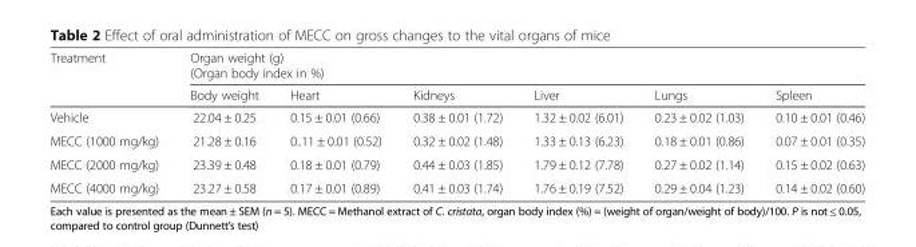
<table><thead><tr><td rowspan="2">Treatment</td><td colspan="6">Organ weight (g) (Organ body index in %)</td></tr><tr><td>Body weight</td><td>Heart</td><td>Kidneys</td><td>Liver</td><td>Lungs</td><td>Spleen</td></tr></thead><tbody><tr><td>Vehicle</td><td>22.04 ± 0.25</td><td>0.15 ± 0.01 (0.66)</td><td>0.38 ± 0.01 (1.72)</td><td>1.32 ± 0.02 (6.01)</td><td>0.23 ± 0.02 (1.03)</td><td>0.10 ± 0.01 (0.46)</td></tr><tr><td>MECC (1000 mg/kg)</td><td>21.28 ± 0.16</td><td>0..11 ± 0.01 (0.52)</td><td>0.32 ± 0.02 (1.48)</td><td>1.33 ± 0.13 (6.23)</td><td>0.18 ± 0.01 (0.86)</td><td>0.07 ± 0.01 (0.35)</td></tr><tr><td>MECC (2000 mg/kg)</td><td>23.39 ± 0.48</td><td>0.18 ± 0.01 (0.79)</td><td>0.44 ± 0.03 (1.85)</td><td>1.79 ± 0.12 (7.78)</td><td>0.27 ± 0.02 (1.14)</td><td>0.15 ± 0.02 (0.63)</td></tr><tr><td>MECC (4000 mg/kg)</td><td>23.27 ± 0.58</td><td>0.17 ± 0.01 (0.89)</td><td>0.41 ± 0.03 (1.74)</td><td>1.76 ± 0.19 (7.52)</td><td>0.29 ± 0.04 (1.23)</td><td>0.14 ± 0.02 (0.60)</td></tr></tbody></table>